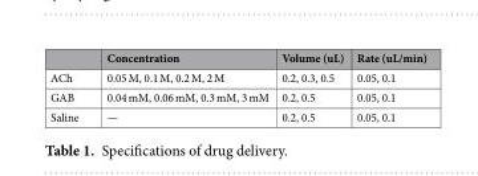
<table><thead><tr><td></td><td>Concentration</td><td>Volume (uL)</td><td>Rate (uL/min)</td></tr></thead><tbody><tr><td>ACh</td><td>0.05 M, 0.1 M, 0.2 M, 2 M</td><td>0.2, 0.3, 0.5</td><td>0.05, 0.1</td></tr><tr><td>GAB</td><td>0.04 mM, 0.06 mM, 0.3 mM, 3 mM</td><td>0.2, 0.5</td><td>0.05, 0.1</td></tr><tr><td>Saline</td><td>—</td><td>0.2, 0.5</td><td>0.05, 0.1</td></tr></tbody></table>